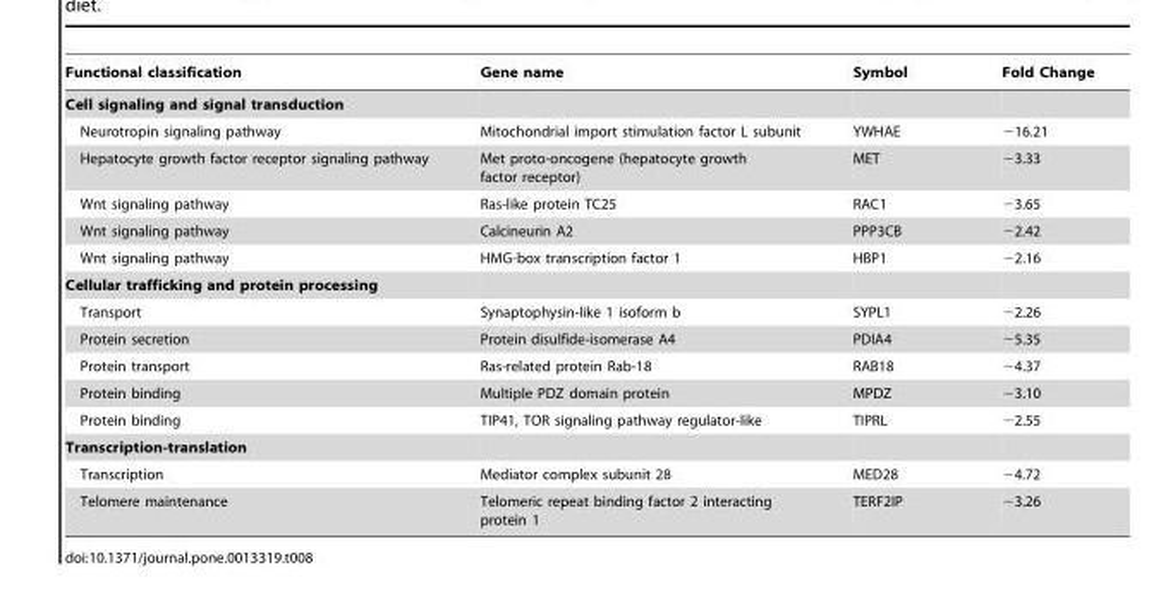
<table><thead><tr><td>Functional classification</td><td>Gene name</td><td>Symbol</td><td>Fold Change</td></tr></thead><tbody><tr><td colspan="4">Cell signaling and signal transduction</td></tr><tr><td>Neurotropin signaling pathway</td><td>Mitochondrial import stimulation factor L subunit</td><td>YWHAE</td><td>−16.21</td></tr><tr><td>Hepatocyte growth factor receptor signaling pathway</td><td>Met proto-oncogene (hepatocyte growth factor receptor)</td><td>MET</td><td>−3.33</td></tr><tr><td>Wnt signaling pathway</td><td>Ras-like protein TC25</td><td>RAC1</td><td>−3.65</td></tr><tr><td>Wnt signaling pathway</td><td>Calcineurin A2</td><td>PPP3CB</td><td>−2.42</td></tr><tr><td>Wnt signaling pathway</td><td>HMG-box transcription factor 1</td><td>HBP1</td><td>−2.16</td></tr><tr><td colspan="4">Cellular trafficking and protein processing</td></tr><tr><td>Transport</td><td>Synaptophysin-like 1 isoform b</td><td>SYPL1</td><td>−2.26</td></tr><tr><td>Protein secretion</td><td>Protein disulfide-isomerase A4</td><td>PDIA4</td><td>−5.35</td></tr><tr><td>Protein transport</td><td>Ras-related protein Rab-18</td><td>RAB18</td><td>−4.37</td></tr><tr><td>Protein binding</td><td>Multiple PDZ domain protein</td><td>MPDZ</td><td>−3.10</td></tr><tr><td>Protein binding</td><td>TIP41, TOR signaling pathway regulator-like</td><td>TIPRL</td><td>−2.55</td></tr><tr><td colspan="4">Transcription-translation</td></tr><tr><td>Transcription</td><td>Mediator complex subunit 28</td><td>MED28</td><td>−4.72</td></tr><tr><td>Telomere maintenance</td><td>Telomeric repeat binding factor 2 interacting protein 1</td><td>TERF2IP</td><td>−3.26</td></tr></tbody></table>